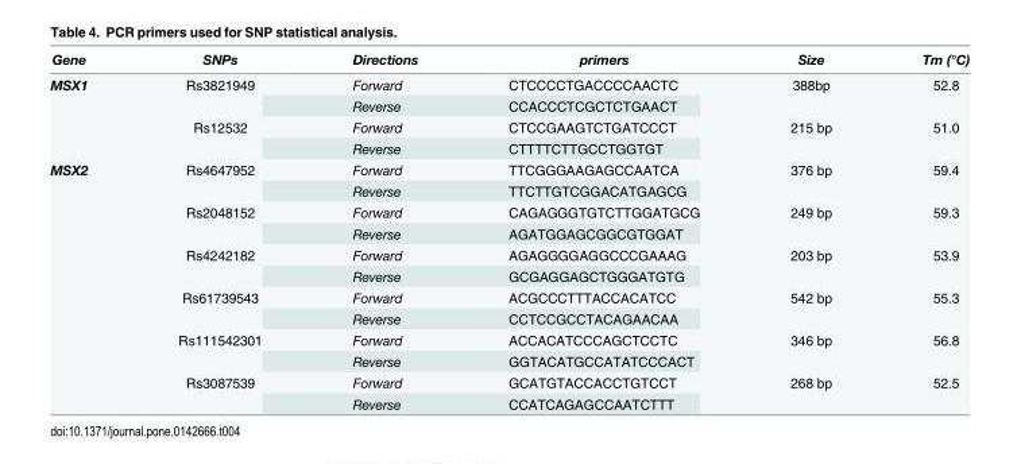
<table><thead><tr><td>Gene</td><td>SNPs</td><td>Directions</td><td>primers</td><td>Size</td><td>Tm (°C)</td></tr></thead><tbody><tr><td rowspan="4">MSX1</td><td rowspan="2">Rs3821949</td><td>Forward</td><td>CTCCCCTGACCCCAACTC</td><td rowspan="2">388bp</td><td rowspan="2">52.8</td></tr><tr><td>Reverse</td><td>CCACCCTCGCTCTGAACT</td></tr><tr><td rowspan="2">Rs12532</td><td>Forward</td><td>CTCCGAAGTCTGATCCCT</td><td rowspan="2">215 bp</td><td rowspan="2">51.0</td></tr><tr><td>Reverse</td><td>CTTTTCTTGCCTGGTGT</td></tr><tr><td rowspan="12">MSX2</td><td rowspan="2">Rs4647952</td><td>Forward</td><td>TTCGGGAAGAGCCAATCA</td><td rowspan="2">376 bp</td><td rowspan="2">59.4</td></tr><tr><td>Reverse</td><td>TTCTTGTCGGACATGAGCG</td></tr><tr><td rowspan="2">Rs2048152</td><td>Forward</td><td>CAGAGGGTGTCTTGGATGCG</td><td rowspan="2">249 bp</td><td rowspan="2">59.3</td></tr><tr><td>Reverse</td><td>AGATGGAGCGGCGTGGAT</td></tr><tr><td rowspan="2">Rs4242182</td><td>Forward</td><td>AGAGGGGAGGCCCGAAAG</td><td rowspan="2">203 bp</td><td rowspan="2">53.9</td></tr><tr><td>Reverse</td><td>GCGAGGAGCTGGGATGTG</td></tr><tr><td rowspan="2">Rs61739543</td><td>Forward</td><td>ACGCCCTTTACCACATCC</td><td rowspan="2">542 bp</td><td rowspan="2">55.3</td></tr><tr><td>Reverse</td><td>CCTCCGCCTACAGAACAA</td></tr><tr><td rowspan="2">Rs111542301</td><td>Forward</td><td>ACCACATCCCAGCTCCTC</td><td rowspan="2">346 bp</td><td rowspan="2">56.8</td></tr><tr><td>Reverse</td><td>GGTACATGCCATATCCCACT</td></tr><tr><td rowspan="2">Rs3087539</td><td>Forward</td><td>GCATGTACCACCTGTCCT</td><td rowspan="2">268 bp</td><td rowspan="2">52.5</td></tr><tr><td>Reverse</td><td>CCATCAGAGCCAATCTTT</td></tr></tbody></table>